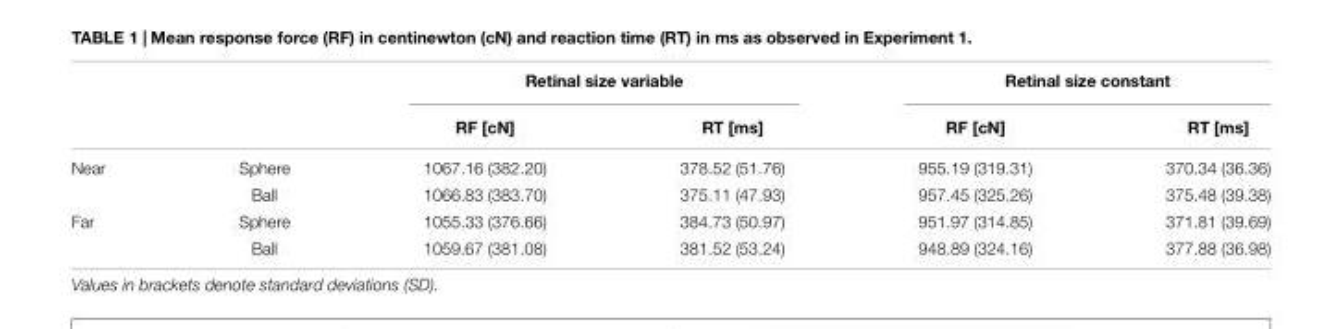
<table><thead><tr><td rowspan="2"></td><td rowspan="2"></td><td colspan="2">Retinal size variable</td><td colspan="2">Retinal size constant</td></tr><tr><td>RF [cN]</td><td>RT [ms]</td><td>RF [cN]</td><td>RT [ms]</td></tr></thead><tbody><tr><td rowspan="2">Near</td><td>Sphere</td><td>1067.16 (382.20)</td><td>378.52 (51.76)</td><td>955.19 (319.31)</td><td>370.34 (36.36)</td></tr><tr><td>Ball</td><td>1066.83 (383.70)</td><td>375.11 (47.93)</td><td>957.45 (325.26)</td><td>375.48 (39.38)</td></tr><tr><td rowspan="2">Far</td><td>Sphere</td><td>1055.33 (376.66)</td><td>384.73 (50.97)</td><td>951.97 (314.85)</td><td>371.81 (39.69)</td></tr><tr><td>Ball</td><td>1059.67 (381.08)</td><td>381.52 (53.24)</td><td>948.89 (324.16)</td><td>377.88 (36.98)</td></tr></tbody></table>